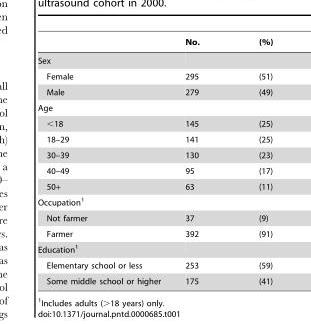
<table><thead><tr><td></td><td>No.</td><td>(%)</td></tr></thead><tbody><tr><td colspan="3">Sex</td></tr><tr><td>Female</td><td>295</td><td>(51)</td></tr><tr><td>Male</td><td>279</td><td>(49)</td></tr><tr><td colspan="3">Age</td></tr><tr><td>&lt;18</td><td>145</td><td>(25)</td></tr><tr><td>18–29</td><td>141</td><td>(25)</td></tr><tr><td>30–39</td><td>130</td><td>(23)</td></tr><tr><td>40–49</td><td>95</td><td>(17)</td></tr><tr><td>50+</td><td>63</td><td>(11)</td></tr><tr><td colspan="3">Occupation<sup>1</sup></td></tr><tr><td>Not farmer</td><td>37</td><td>(9)</td></tr><tr><td>Farmer</td><td>392</td><td>(91)</td></tr><tr><td colspan="3">Education<sup>1</sup></td></tr><tr><td>Elementary school or less</td><td>253</td><td>(59)</td></tr><tr><td>Some middle school or higher</td><td>175</td><td>(41)</td></tr></tbody></table>